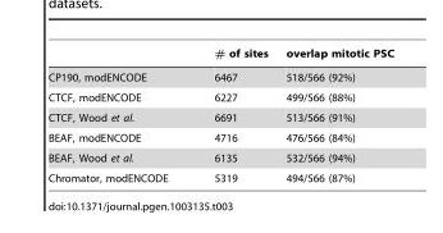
<table><thead><tr><td></td><td># of sites</td><td>overlap mitotic PSC</td></tr></thead><tbody><tr><td>CP190, modENCODE</td><td>6467</td><td>518/566 (92%)</td></tr><tr><td>CTCF, modENCODE</td><td>6227</td><td>499/566 (88%)</td></tr><tr><td>CTCF, Wood et al.</td><td>6691</td><td>513/566 (91%)</td></tr><tr><td>BEAF, modENCODE</td><td>4716</td><td>476/566 (84%)</td></tr><tr><td>BEAF, Wood et al.</td><td>6135</td><td>532/566 (94%)</td></tr><tr><td>Chromator, modENCODE</td><td>5319</td><td>494/566 (87%)</td></tr></tbody></table>